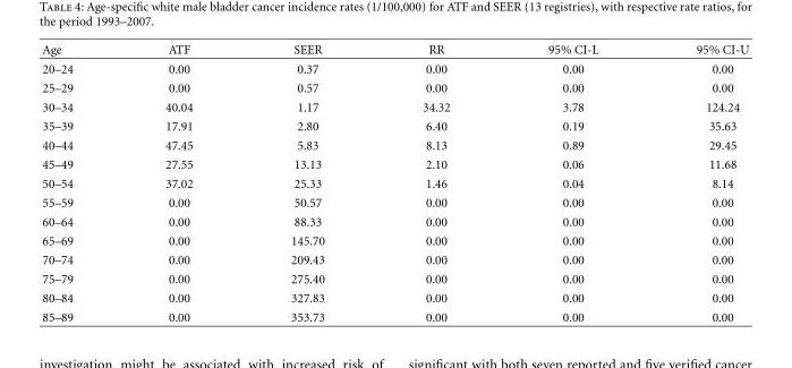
<table><thead><tr><td>Age</td><td>ATF</td><td>SEER</td><td>RR</td><td>95% CI-L</td><td>95% CI-U</td></tr></thead><tbody><tr><td>20–24</td><td>0.00</td><td>0.37</td><td>0.00</td><td>0.00</td><td>0.00</td></tr><tr><td>25–29</td><td>0.00</td><td>0.57</td><td>0.00</td><td>0.00</td><td>0.00</td></tr><tr><td>30–34</td><td>40.04</td><td>1.17</td><td>34.32</td><td>3.78</td><td>124.24</td></tr><tr><td>35–39</td><td>17.91</td><td>2.80</td><td>6.40</td><td>0.19</td><td>35.63</td></tr><tr><td>40–44</td><td>47.45</td><td>5.83</td><td>8.13</td><td>0.89</td><td>29.45</td></tr><tr><td>45–49</td><td>27.55</td><td>13.13</td><td>2.10</td><td>0.06</td><td>11.68</td></tr><tr><td>50–54</td><td>37.02</td><td>25.33</td><td>1.46</td><td>0.04</td><td>8.14</td></tr><tr><td>55–59</td><td>0.00</td><td>50.57</td><td>0.00</td><td>0.00</td><td>0.00</td></tr><tr><td>60–64</td><td>0.00</td><td>88.33</td><td>0.00</td><td>0.00</td><td>0.00</td></tr><tr><td>65–69</td><td>0.00</td><td>145.70</td><td>0.00</td><td>0.00</td><td>0.00</td></tr><tr><td>70–74</td><td>0.00</td><td>209.43</td><td>0.00</td><td>0.00</td><td>0.00</td></tr><tr><td>75–79</td><td>0.00</td><td>275.40</td><td>0.00</td><td>0.00</td><td>0.00</td></tr><tr><td>80–84</td><td>0.00</td><td>327.83</td><td>0.00</td><td>0.00</td><td>0.00</td></tr><tr><td>85–89</td><td>0.00</td><td>353.73</td><td>0.00</td><td>0.00</td><td>0.00</td></tr></tbody></table>